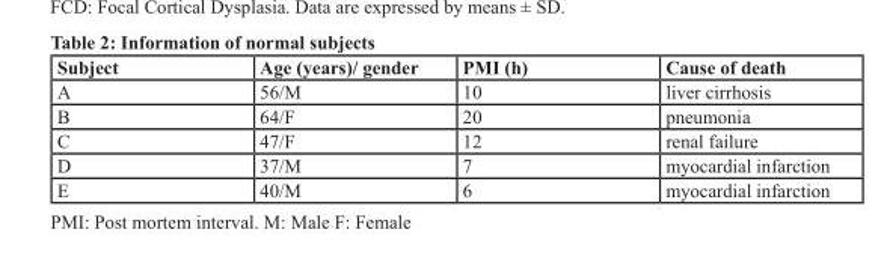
<table><thead><tr><td>Subject</td><td>Age (years)/ gender</td><td>PMI (h)</td><td>Cause of death</td></tr></thead><tbody><tr><td>A</td><td>56/M</td><td>10</td><td>liver cirrhosis</td></tr><tr><td>B</td><td>64/F</td><td>20</td><td>pneumonia</td></tr><tr><td>C</td><td>47/F</td><td>12</td><td>renal failure</td></tr><tr><td>D</td><td>37/M</td><td>7</td><td>myocardial infarction</td></tr><tr><td>E</td><td>40/M</td><td>6</td><td>myocardial infarction</td></tr></tbody></table>